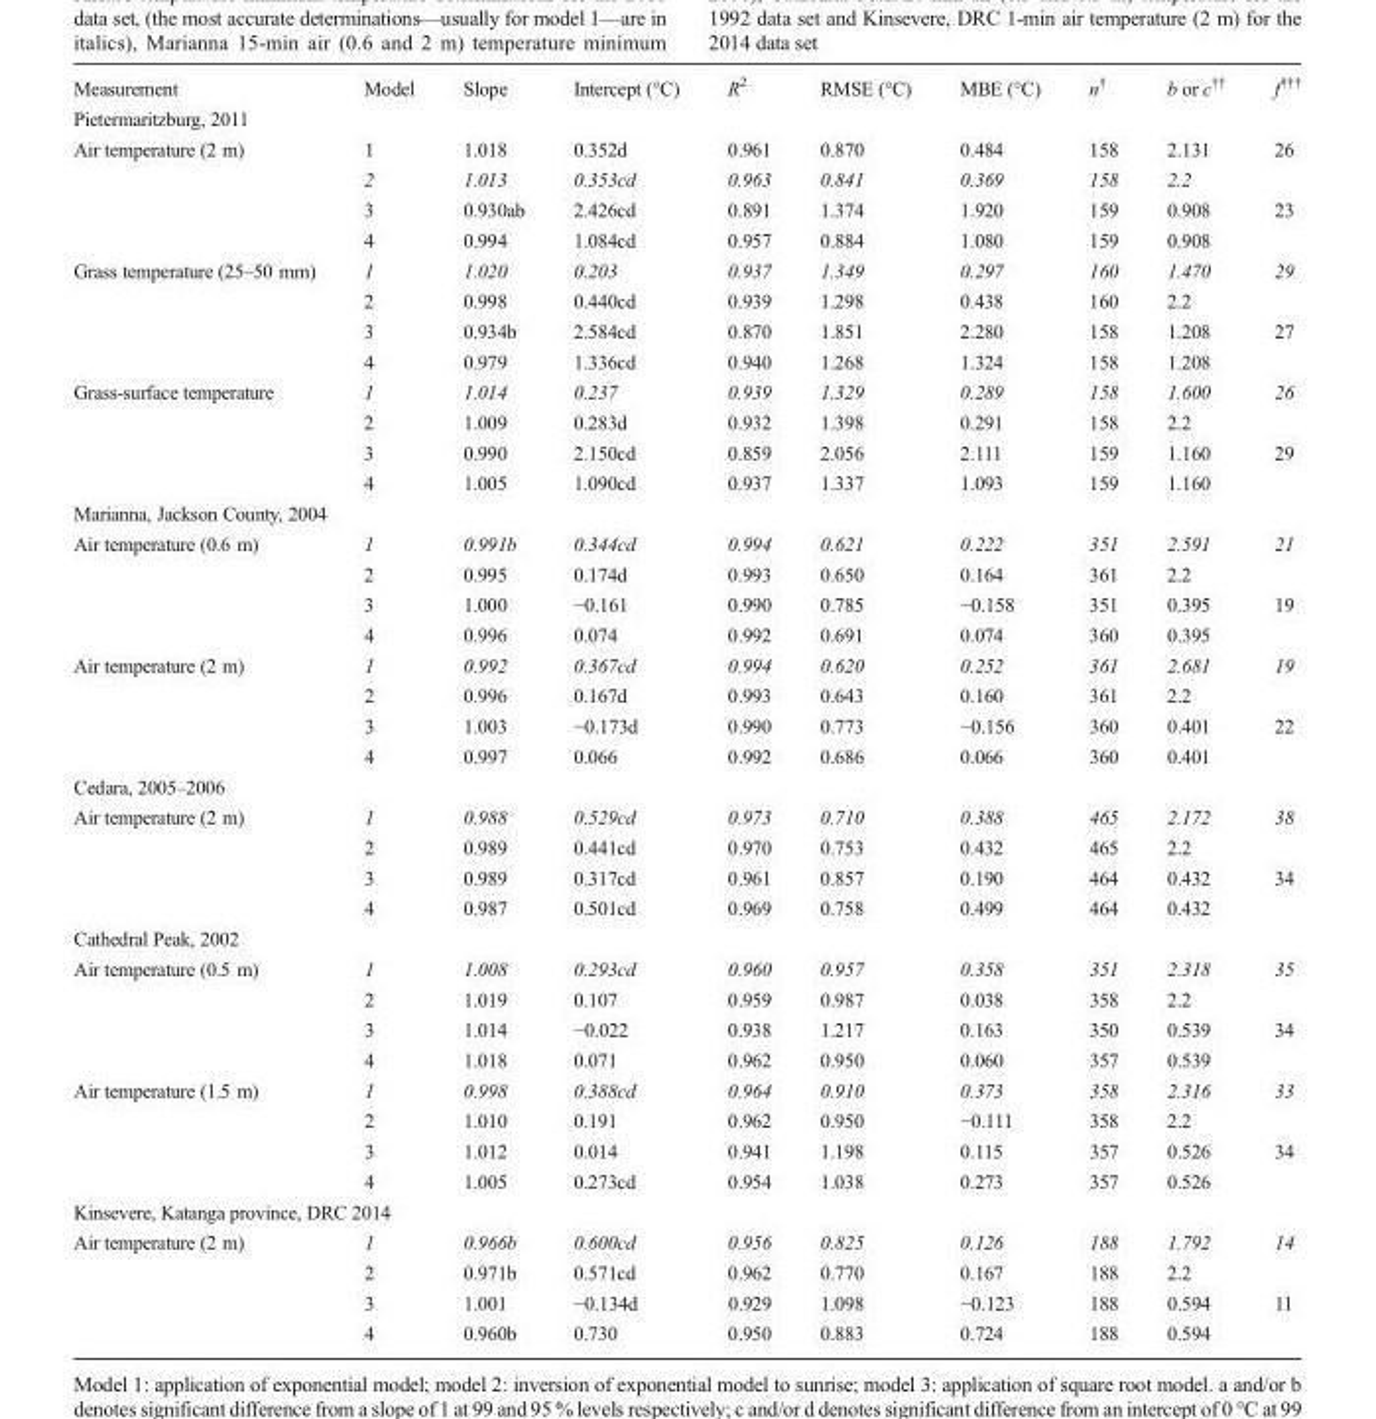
<table><tbody><tr><td>Measurement</td><td>Model</td><td>Slope</td><td>Intercept (°C)</td><td>R<sup>2</sup></td><td>RMSE (°C)</td><td>MBE (°C)</td><td>n<sup>†</sup></td><td>b or c<sup>††</sup></td><td>f<sup>†††</sup></td></tr><tr><td colspan="10">Pietermaritzburg, 2011</td></tr><tr><td rowspan="4">Air temperature (2 m)</td><td>1</td><td>1.018</td><td>0.352d</td><td>0.961</td><td>0.870</td><td>0.484</td><td>158</td><td>2.131</td><td>26</td></tr><tr><td>2</td><td>1.013</td><td>0.353cd</td><td>0.963</td><td>0.841</td><td>0.369</td><td>158</td><td>2.2</td><td></td></tr><tr><td>3</td><td>0.930ab</td><td>2.426cd</td><td>0.891</td><td>1.374</td><td>1.920</td><td>159</td><td>0.908</td><td>23</td></tr><tr><td>4</td><td>0.994</td><td>1.084cd</td><td>0.957</td><td>0.884</td><td>1.080</td><td>159</td><td>0.908</td><td></td></tr><tr><td rowspan="4">Grass temperature (25–50 mm)</td><td>1</td><td>1.020</td><td>0.203</td><td>0.937</td><td>1.349</td><td>0.297</td><td>160</td><td>1.470</td><td>29</td></tr><tr><td>2</td><td>0.998</td><td>0.440cd</td><td>0.939</td><td>1.298</td><td>0.438</td><td>160</td><td>2.2</td><td></td></tr><tr><td>3</td><td>0.934b</td><td>2.584cd</td><td>0.870</td><td>1.851</td><td>2.280</td><td>158</td><td>1.208</td><td>27</td></tr><tr><td>4</td><td>0.979</td><td>1.336cd</td><td>0.940</td><td>1.268</td><td>1.324</td><td>158</td><td>1.208</td><td></td></tr><tr><td rowspan="4">Grass-surface temperature</td><td>1</td><td>1.014</td><td>0.237</td><td>0.939</td><td>1.329</td><td>0.289</td><td>158</td><td>1.600</td><td>26</td></tr><tr><td>2</td><td>1.009</td><td>0.283d</td><td>0.932</td><td>1.398</td><td>0.291</td><td>158</td><td>2.2</td><td></td></tr><tr><td>3</td><td>0.990</td><td>2.150cd</td><td>0.859</td><td>2.056</td><td>2.111</td><td>159</td><td>1.160</td><td>29</td></tr><tr><td>4</td><td>1.005</td><td>1.090cd</td><td>0.937</td><td>1.337</td><td>1.093</td><td>159</td><td>1.160</td><td></td></tr><tr><td colspan="10">Marianna, Jackson County, 2004</td></tr><tr><td rowspan="4">Air temperature (0.6 m)</td><td>1</td><td>0.991b</td><td>0.344cd</td><td>0.994</td><td>0.621</td><td>0.222</td><td>351</td><td>2.591</td><td>21</td></tr><tr><td>2</td><td>0.995</td><td>0.174d</td><td>0.993</td><td>0.650</td><td>0.164</td><td>361</td><td>2.2</td><td></td></tr><tr><td>3</td><td>1.000</td><td>−0.161</td><td>0.990</td><td>0.785</td><td>−0.158</td><td>351</td><td>0.395</td><td>19</td></tr><tr><td>4</td><td>0.996</td><td>0.074</td><td>0.992</td><td>0.691</td><td>0.074</td><td>360</td><td>0.395</td><td></td></tr><tr><td rowspan="4">Air temperature (2 m)</td><td>1</td><td>0.992</td><td>0.367cd</td><td>0.994</td><td>0.620</td><td>0.252</td><td>361</td><td>2.681</td><td>19</td></tr><tr><td>2</td><td>0.996</td><td>0.167d</td><td>0.993</td><td>0.643</td><td>0.160</td><td>361</td><td>2.2</td><td></td></tr><tr><td>3</td><td>1.003</td><td>−0.173d</td><td>0.990</td><td>0.773</td><td>−0.156</td><td>360</td><td>0.401</td><td>22</td></tr><tr><td>4</td><td>0.997</td><td>0.066</td><td>0.992</td><td>0.686</td><td>0.066</td><td>360</td><td>0.401</td><td></td></tr><tr><td colspan="10">Cedara, 2005–2006</td></tr><tr><td rowspan="4">Air temperature (2 m)</td><td>1</td><td>0.988</td><td>0.529cd</td><td>0.973</td><td>0.710</td><td>0.388</td><td>465</td><td>2.172</td><td>38</td></tr><tr><td>2</td><td>0.989</td><td>0.441cd</td><td>0.970</td><td>0.753</td><td>0.432</td><td>465</td><td>2.2</td><td></td></tr><tr><td>3</td><td>0.989</td><td>0.317cd</td><td>0.961</td><td>0.857</td><td>0.190</td><td>464</td><td>0.432</td><td>34</td></tr><tr><td>4</td><td>0.987</td><td>0.501cd</td><td>0.969</td><td>0.758</td><td>0.499</td><td>464</td><td>0.432</td><td></td></tr><tr><td colspan="10">Cathedral Peak, 2002</td></tr><tr><td rowspan="4">Air temperature (0.5 m)</td><td>1</td><td>1.008</td><td>0.293cd</td><td>0.960</td><td>0.957</td><td>0.358</td><td>351</td><td>2.318</td><td>35</td></tr><tr><td>2</td><td>1.019</td><td>0.107</td><td>0.959</td><td>0.987</td><td>0.038</td><td>358</td><td>2.2</td><td></td></tr><tr><td>3</td><td>1.014</td><td>−0.022</td><td>0.938</td><td>1.217</td><td>0.163</td><td>350</td><td>0.539</td><td>34</td></tr><tr><td>4</td><td>1.018</td><td>0.071</td><td>0.962</td><td>0.950</td><td>0.060</td><td>357</td><td>0.539</td><td></td></tr><tr><td rowspan="4">Air temperature (1.5 m)</td><td>1</td><td>0.998</td><td>0.388cd</td><td>0.964</td><td>0.910</td><td>0.373</td><td>358</td><td>2.316</td><td>33</td></tr><tr><td>2</td><td>1.010</td><td>0.191</td><td>0.962</td><td>0.950</td><td>−0.111</td><td>358</td><td>2.2</td><td></td></tr><tr><td>3</td><td>1.012</td><td>0.014</td><td>0.941</td><td>1.198</td><td>0.115</td><td>357</td><td>0.526</td><td>34</td></tr><tr><td>4</td><td>1.005</td><td>0.273cd</td><td>0.954</td><td>1.038</td><td>0.273</td><td>357</td><td>0.526</td><td></td></tr><tr><td colspan="10">Kinsevere, Katanga province, DRC 2014</td></tr><tr><td rowspan="4">Air temperature (2 m)</td><td>1</td><td>0.966b</td><td>0.600cd</td><td>0.956</td><td>0.825</td><td>0.126</td><td>188</td><td>1.792</td><td>14</td></tr><tr><td>2</td><td>0.971b</td><td>0.571cd</td><td>0.962</td><td>0.770</td><td>0.167</td><td>188</td><td>2.2</td><td></td></tr><tr><td>3</td><td>1.001</td><td>−0.134d</td><td>0.929</td><td>1.098</td><td>−0.123</td><td>188</td><td>0.594</td><td>11</td></tr><tr><td>4</td><td>0.960b</td><td>0.730</td><td>0.950</td><td>0.883</td><td>0.724</td><td>188</td><td>0.594</td><td></td></tr></tbody></table>